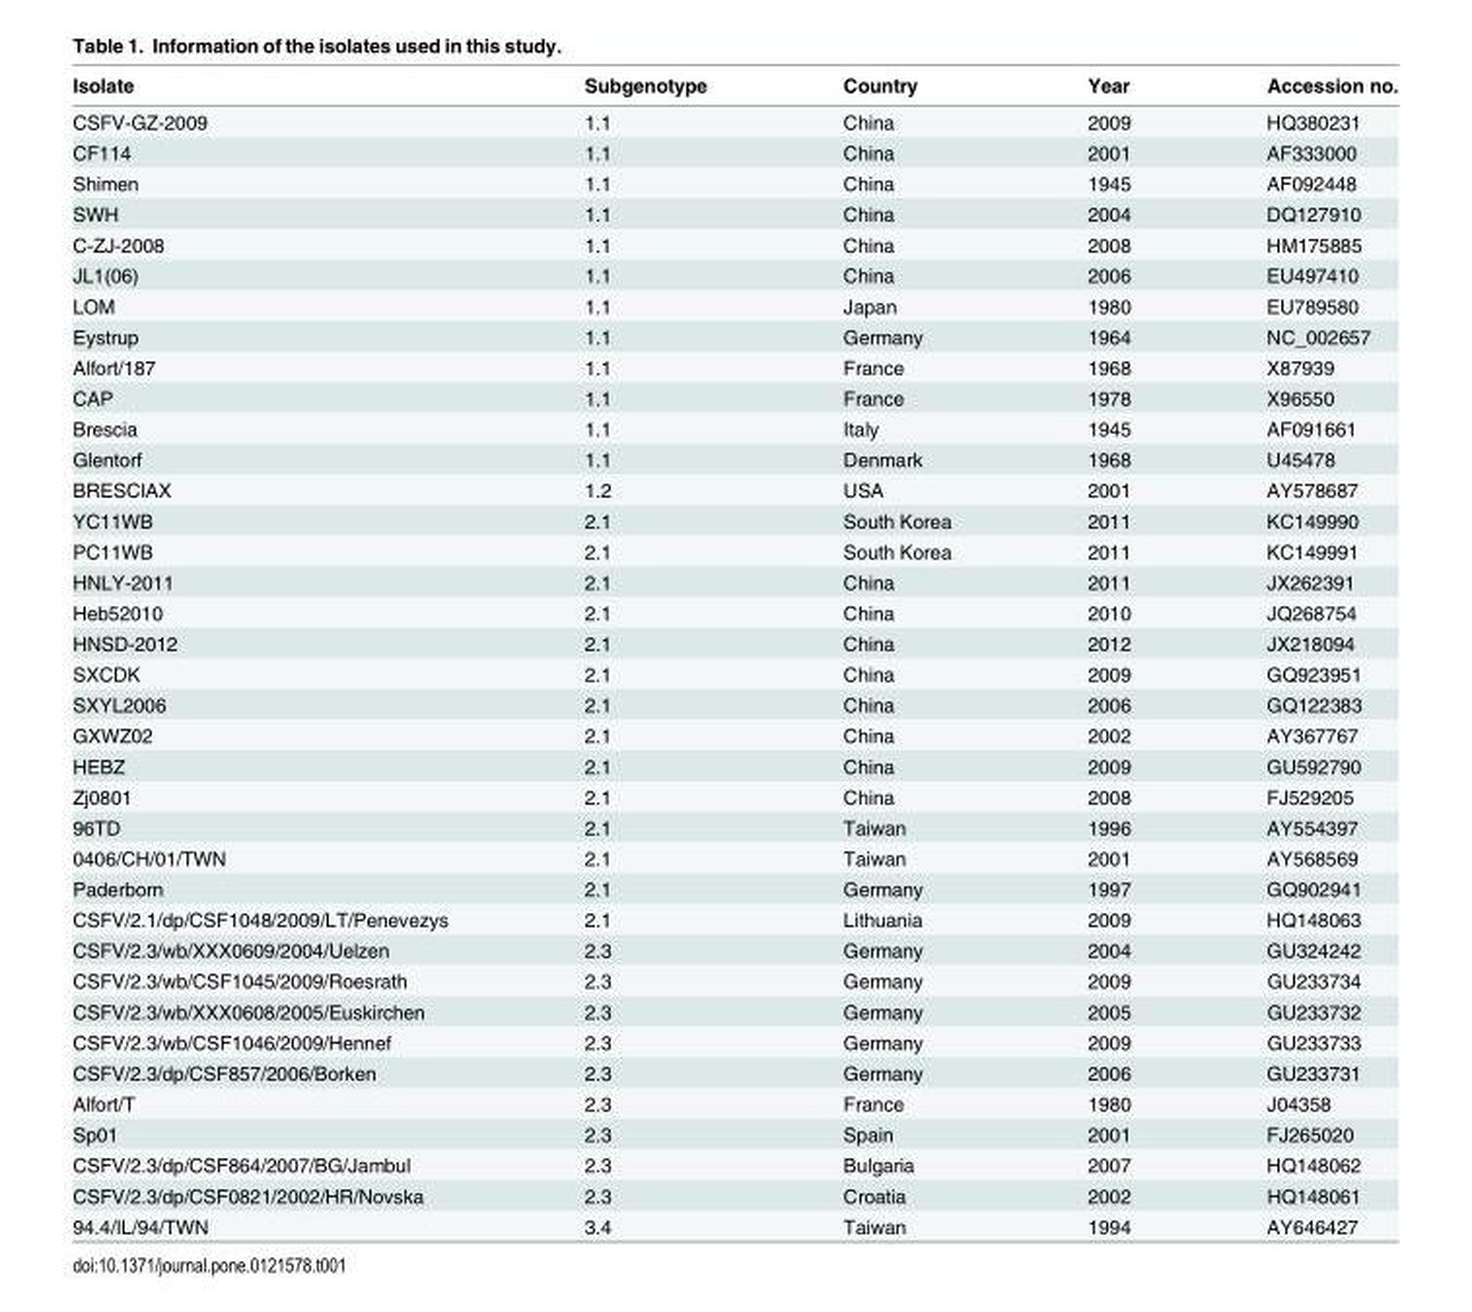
<table><thead><tr><td>Isolate</td><td>Subgenotype</td><td>Country</td><td>Year</td><td>Accession no.</td></tr></thead><tbody><tr><td>CSFV-GZ-2009</td><td>1.1</td><td>China</td><td>2009</td><td>HQ380231</td></tr><tr><td>CF114</td><td>1.1</td><td>China</td><td>2001</td><td>AF333000</td></tr><tr><td>Shimen</td><td>1.1</td><td>China</td><td>1945</td><td>AF092448</td></tr><tr><td>SWH</td><td>1.1</td><td>China</td><td>2004</td><td>DQ127910</td></tr><tr><td>C-ZJ-2008</td><td>1.1</td><td>China</td><td>2008</td><td>HM175885</td></tr><tr><td>JL1(06)</td><td>1.1</td><td>China</td><td>2006</td><td>EU497410</td></tr><tr><td>LOM</td><td>1.1</td><td>Japan</td><td>1980</td><td>EU789580</td></tr><tr><td>Eystrup</td><td>1.1</td><td>Germany</td><td>1964</td><td>NC_002657</td></tr><tr><td>Alfort/187</td><td>1.1</td><td>France</td><td>1968</td><td>X87939</td></tr><tr><td>CAP</td><td>1.1</td><td>France</td><td>1978</td><td>X96550</td></tr><tr><td>Brescia</td><td>1.1</td><td>Italy</td><td>1945</td><td>AF091661</td></tr><tr><td>Glentorf</td><td>1.1</td><td>Denmark</td><td>1968</td><td>U45478</td></tr><tr><td>BRESCIAX</td><td>1.2</td><td>USA</td><td>2001</td><td>AY578687</td></tr><tr><td>YC11WB</td><td>2.1</td><td>South Korea</td><td>2011</td><td>KC149990</td></tr><tr><td>PC11WB</td><td>2.1</td><td>South Korea</td><td>2011</td><td>KC149991</td></tr><tr><td>HNLY-2011</td><td>2.1</td><td>China</td><td>2011</td><td>JX262391</td></tr><tr><td>Heb52010</td><td>2.1</td><td>China</td><td>2010</td><td>JQ268754</td></tr><tr><td>HNSD-2012</td><td>2.1</td><td>China</td><td>2012</td><td>JX218094</td></tr><tr><td>SXCDK</td><td>2.1</td><td>China</td><td>2009</td><td>GQ923951</td></tr><tr><td>SXYL2006</td><td>2.1</td><td>China</td><td>2006</td><td>GQ122383</td></tr><tr><td>GXWZ02</td><td>2.1</td><td>China</td><td>2002</td><td>AY367767</td></tr><tr><td>HEBZ</td><td>2.1</td><td>China</td><td>2009</td><td>GU592790</td></tr><tr><td>Zj0801</td><td>2.1</td><td>China</td><td>2008</td><td>FJ529205</td></tr><tr><td>96TD</td><td>2.1</td><td>Taiwan</td><td>1996</td><td>AY554397</td></tr><tr><td>0406/CH/01/TWN</td><td>2.1</td><td>Taiwan</td><td>2001</td><td>AY568569</td></tr><tr><td>Paderborn</td><td>2.1</td><td>Germany</td><td>1997</td><td>GQ902941</td></tr><tr><td>CSFV/2.1/dp/CSF1048/2009/LT/Penevezys</td><td>2.1</td><td>Lithuania</td><td>2009</td><td>HQ148063</td></tr><tr><td>CSFV/2.3/wb/XXX0609/2004/Uelzen</td><td>2.3</td><td>Germany</td><td>2004</td><td>GU324242</td></tr><tr><td>CSFV/2.3/wb/CSF1045/2009/Roesrath</td><td>2.3</td><td>Germany</td><td>2009</td><td>GU233734</td></tr><tr><td>CSFV/2.3/wb/XXX0608/2005/Euskirchen</td><td>2.3</td><td>Germany</td><td>2005</td><td>GU233732</td></tr><tr><td>CSFV/2.3/wb/CSF1046/2009/Hennef</td><td>2.3</td><td>Germany</td><td>2009</td><td>GU233733</td></tr><tr><td>CSFV/2.3/dp/CSF857/2006/Borken</td><td>2.3</td><td>Germany</td><td>2006</td><td>GU233731</td></tr><tr><td>Alfort/T</td><td>2.3</td><td>France</td><td>1980</td><td>J04358</td></tr><tr><td>Sp01</td><td>2.3</td><td>Spain</td><td>2001</td><td>FJ265020</td></tr><tr><td>CSFV/2.3/dp/CSF864/2007/BG/Jambul</td><td>2.3</td><td>Bulgaria</td><td>2007</td><td>HQ148062</td></tr><tr><td>CSFV/2.3/dp/CSF0821/2002/HR/Novska</td><td>2.3</td><td>Croatia</td><td>2002</td><td>HQ148061</td></tr><tr><td>94.4/IL/94/TWN</td><td>3.4</td><td>Taiwan</td><td>1994</td><td>AY646427</td></tr></tbody></table>